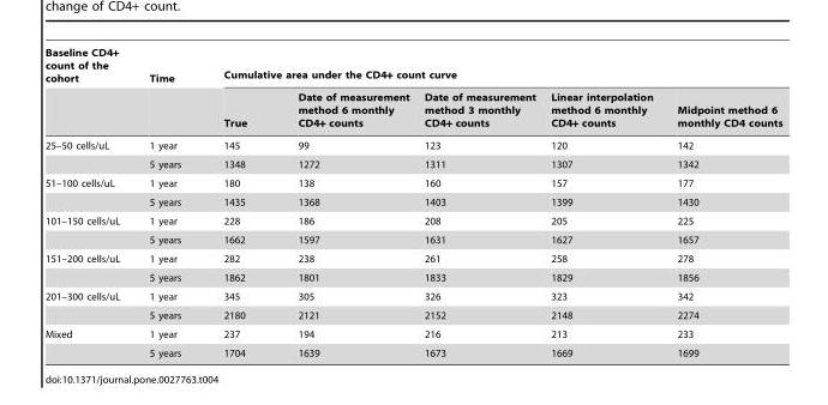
<table><thead><tr><td rowspan="2">Baseline CD4+ count of the cohort</td><td rowspan="2">Time</td><td colspan="5">Cumulative area under the CD4+ count curve</td></tr><tr><td>True</td><td>Date of measurement method 6 monthly CD4+ counts</td><td>Date of measurement method 3 monthly CD4+ counts</td><td>Linear interpolation method 6 monthly CD4+ counts</td><td>Midpoint method 6 monthly CD4 counts</td></tr></thead><tbody><tr><td rowspan="2">25–50 cells/uL</td><td>1 year</td><td>145</td><td>99</td><td>123</td><td>120</td><td>142</td></tr><tr><td>5 years</td><td>1348</td><td>1272</td><td>1311</td><td>1307</td><td>1342</td></tr><tr><td rowspan="2">51–100 cells/uL</td><td>1 year</td><td>180</td><td>138</td><td>160</td><td>157</td><td>177</td></tr><tr><td>5 years</td><td>1435</td><td>1368</td><td>1403</td><td>1399</td><td>1430</td></tr><tr><td rowspan="2">101–150 cells/uL</td><td>1 year</td><td>228</td><td>186</td><td>208</td><td>205</td><td>225</td></tr><tr><td>5 years</td><td>1662</td><td>1597</td><td>1631</td><td>1627</td><td>1657</td></tr><tr><td rowspan="2">151–200 cells/uL</td><td>1 year</td><td>282</td><td>238</td><td>261</td><td>258</td><td>278</td></tr><tr><td>5 years</td><td>1862</td><td>1801</td><td>1833</td><td>1829</td><td>1856</td></tr><tr><td rowspan="2">201–300 cells/uL</td><td>1 year</td><td>345</td><td>305</td><td>326</td><td>323</td><td>342</td></tr><tr><td>5 years</td><td>2180</td><td>2121</td><td>2152</td><td>2148</td><td>2274</td></tr><tr><td rowspan="2">Mixed</td><td>1 year</td><td>237</td><td>194</td><td>216</td><td>213</td><td>233</td></tr><tr><td>5 years</td><td>1704</td><td>1639</td><td>1673</td><td>1669</td><td>1699</td></tr></tbody></table>